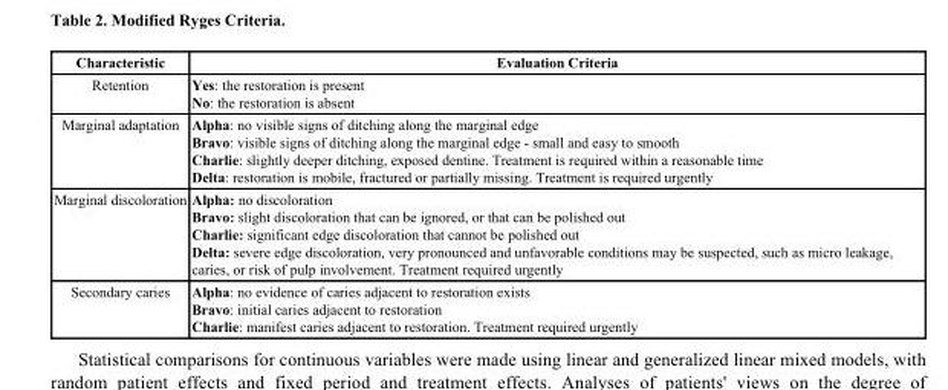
<table><thead><tr><td>Characteristic</td><td>Evaluation Criteria</td></tr></thead><tbody><tr><td>Retention</td><td>Yes: the restoration is present No: the restoration is absent</td></tr><tr><td>Marginal adaptation</td><td>Alpha: no visible signs of ditching along the marginal edge Bravo: visible signs of ditching along the marginal edge - small and easy to smooth Charlie: slightly deeper ditching, exposed dentine. Treatment is required within a reasonable time Delta: restoration is mobile, fractured or partially missing. Treatment is required urgently</td></tr><tr><td>Marginal discoloration</td><td>Alpha: no discoloration Bravo: slight discoloration that can be ignored, or that can be polished out Charlie: significant edge discoloration that cannot be polished out Delta: severe edge discoloration, very pronounced and unfavorable conditions may be suspected, such as micro leakage, caries, or risk of pulp involvement. Treatment required urgently</td></tr><tr><td>Secondary caries</td><td>Alpha: no evidence of caries adjacent to restoration exists Bravo: initial caries adjacent to restoration Charlie: manifest caries adjacent to restoration. Treatment required urgently</td></tr></tbody></table>